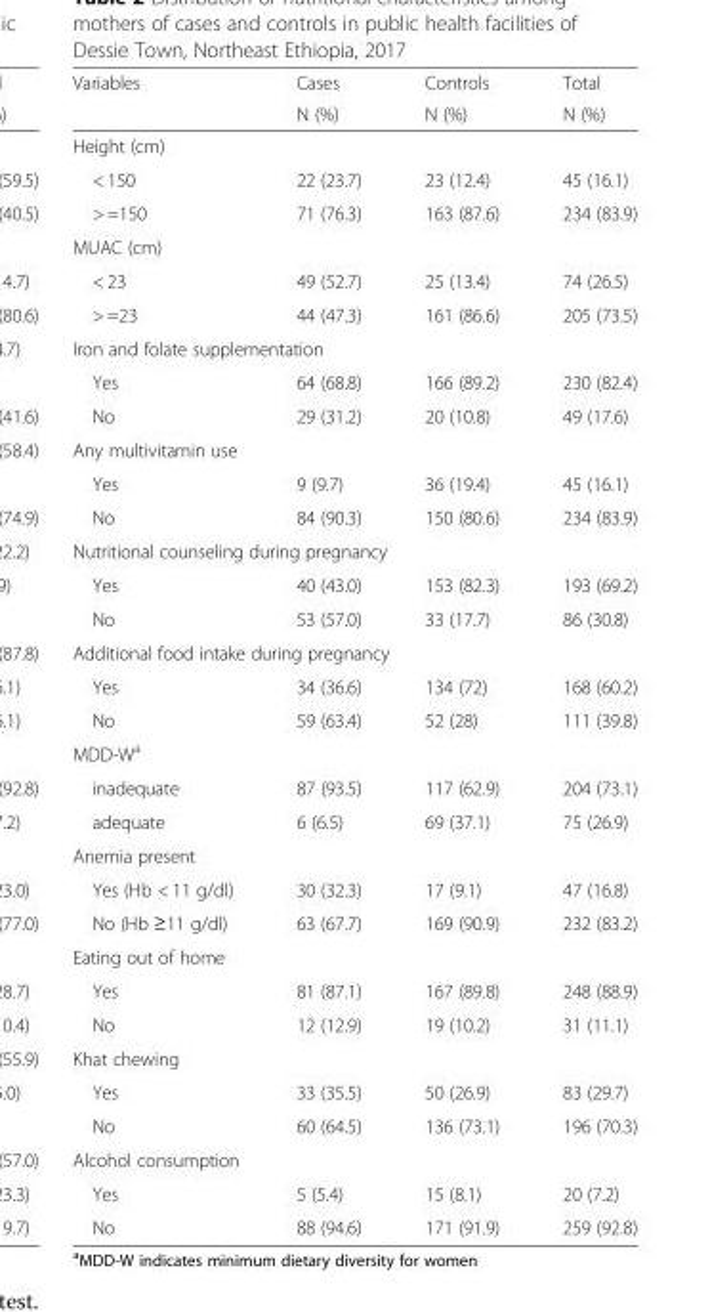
<table><thead><tr><td rowspan="2">Variables</td><td rowspan="2">Cases N (%)</td><td rowspan="2">Controls N (%)</td><td rowspan="2">Total N (%)</td></tr><tr></tr></thead><tbody><tr><td colspan="4">Height (cm)</td></tr><tr><td>&lt; 150</td><td>22 (23.7)</td><td>23 (12.4)</td><td>45 (16.1)</td></tr><tr><td>&gt; =150</td><td>71 (76.3)</td><td>163 (87.6)</td><td>234 (83.9)</td></tr><tr><td colspan="4">MUAC (cm)</td></tr><tr><td>&lt; 23</td><td>49 (52.7)</td><td>25 (13.4)</td><td>74 (26.5)</td></tr><tr><td>&gt; =23</td><td>44 (47.3)</td><td>161 (86.6)</td><td>205 (73.5)</td></tr><tr><td colspan="4">Iron and folate supplementation</td></tr><tr><td>Yes</td><td>64 (68.8)</td><td>166 (89.2)</td><td>230 (82.4)</td></tr><tr><td>No</td><td>29 (31.2)</td><td>20 (10.8)</td><td>49 (17.6)</td></tr><tr><td colspan="4">Any multivitamin use</td></tr><tr><td>Yes</td><td>9 (9.7)</td><td>36 (19.4)</td><td>45 (16.1)</td></tr><tr><td>No</td><td>84 (90.3)</td><td>150 (80.6)</td><td>234 (83.9)</td></tr><tr><td colspan="4">Nutritional counseling during pregnancy</td></tr><tr><td>Yes</td><td>40 (43.0)</td><td>153 (82.3)</td><td>193 (69.2)</td></tr><tr><td>No</td><td>53 (57.0)</td><td>33 (17.7)</td><td>86 (30.8)</td></tr><tr><td colspan="4">Additional food intake during pregnancy</td></tr><tr><td>Yes</td><td>34 (36.6)</td><td>134 (72)</td><td>168 (60.2)</td></tr><tr><td>No</td><td>59 (63.4)</td><td>52 (28)</td><td>111 (39.8)</td></tr><tr><td colspan="4">MDD-W<sup>a</sup></td></tr><tr><td>inadequate</td><td>87 (93.5)</td><td>117 (62.9)</td><td>204 (73.1)</td></tr><tr><td>adequate</td><td>6 (6.5)</td><td>69 (37.1)</td><td>75 (26.9)</td></tr><tr><td colspan="4">Anemia present</td></tr><tr><td>Yes (Hb &lt; 11 g/dl)</td><td>30 (32.3)</td><td>17 (9.1)</td><td>47 (16.8)</td></tr><tr><td>No (Hb ≥11 g/dl)</td><td>63 (67.7)</td><td>169 (90.9)</td><td>232 (83.2)</td></tr><tr><td colspan="4">Eating out of home</td></tr><tr><td>Yes</td><td>81 (87.1)</td><td>167 (89.8)</td><td>248 (88.9)</td></tr><tr><td>No</td><td>12 (12.9)</td><td>19 (10.2)</td><td>31 (11.1)</td></tr><tr><td colspan="4">Khat chewing</td></tr><tr><td>Yes</td><td>33 (35.5)</td><td>50 (26.9)</td><td>83 (29.7)</td></tr><tr><td>No</td><td>60 (64.5)</td><td>136 (73.1)</td><td>196 (70.3)</td></tr><tr><td colspan="4">Alcohol consumption</td></tr><tr><td>Yes</td><td>5 (5.4)</td><td>15 (8.1)</td><td>20 (7.2)</td></tr><tr><td>No</td><td>88 (94.6)</td><td>171 (91.9)</td><td>259 (92.8)</td></tr></tbody></table>